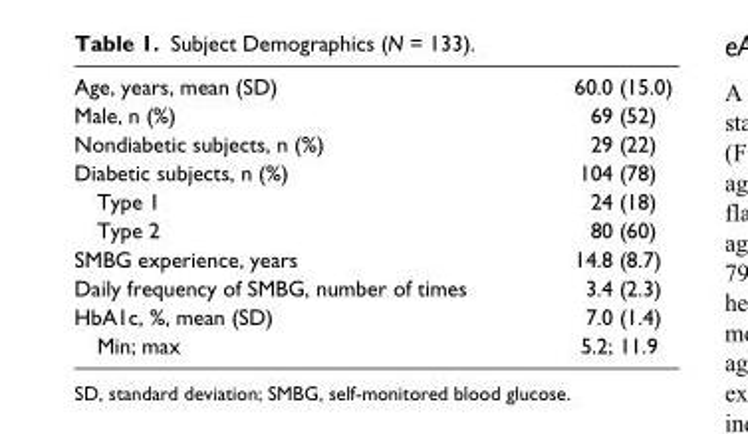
<table><tbody><tr><td>Age, years, mean (SD)</td><td>60.0 (15.0)</td></tr><tr><td>Male, n (%)</td><td>69 (52)</td></tr><tr><td>Nondiabetic subjects, n (%)</td><td>29 (22)</td></tr><tr><td>Diabetic subjects, n (%)</td><td>104 (78)</td></tr><tr><td>Type 1</td><td>24 (18)</td></tr><tr><td>Type 2</td><td>80 (60)</td></tr><tr><td>SMBG experience, years</td><td>14.8 (8.7)</td></tr><tr><td>Daily frequency of SMBG, number of times</td><td>3.4 (2.3)</td></tr><tr><td>HbA1c, %, mean (SD)</td><td>7.0 (1.4)</td></tr><tr><td>Min; max</td><td>5.2; 11.9</td></tr></tbody></table>